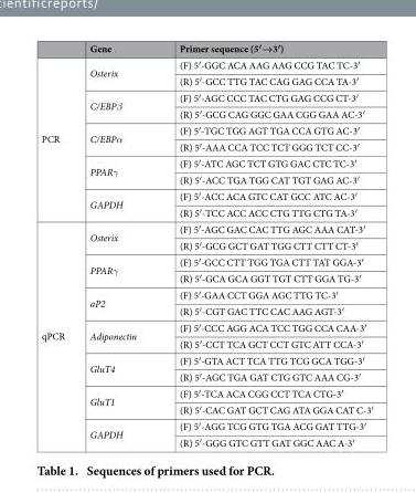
<table><thead><tr><td></td><td>Gene</td><td>Primer sequence (5′→3′)</td></tr></thead><tbody><tr><td rowspan="10">PCR</td><td rowspan="2">Osterix</td><td>(F) 5′ -GGC ACA AAG AAG CCG TAC TC-3′</td></tr><tr><td>(R) 5′ -GCC TTG TAC CAG GAG CCA TA-3′</td></tr><tr><td rowspan="2">C/EBPβ</td><td>(F) 5′ -AGC CCC TAC CTG GAG CCG CT-3′</td></tr><tr><td>(R) 5′ -GCG CAG GGC GAA CGG GAA AC-3′</td></tr><tr><td rowspan="2">C/EBPα</td><td>(F) 5′ -TGC TGG AGT TGA CCA GTG AC-3′</td></tr><tr><td>(R) 5′ -AAA CCA TCC TCT GGG TCT CC-3′</td></tr><tr><td rowspan="2">PPARγ</td><td>(F) 5′ -ATC AGC TCT GTG GAC CTC TC-3′</td></tr><tr><td>(R) 5′ -ACC TGA TGG CAT TGT GAG AC-3′</td></tr><tr><td rowspan="2">GAPDH</td><td>(F) 5′ -ACC ACA GTC CAT GCC ATC AC-3′</td></tr><tr><td>(R) 5′ -TCC ACC ACC CTG TTG CTG TA-3′</td></tr><tr><td rowspan="14">qPCR</td><td rowspan="2">Osterix</td><td>(F) 5′ -AGC GAC CAC TTG AGC AAA CAT-3′</td></tr><tr><td>(R) 5′ -GCG GCT GAT TGG CTT CTT CT-3′</td></tr><tr><td rowspan="2">PPARγ</td><td>(F) 5′ -GCC CTT TGG TGA CTT TAT GGA-3′</td></tr><tr><td>(R) 5′ -GCA GCA GGT TGT CTT GGA TG-3′</td></tr><tr><td rowspan="2">aP2</td><td>(F) 5′ -GAA CCT GGA AGC TTG TC-3′</td></tr><tr><td>(R) 5′ -CGT GAC TTC CAC AAG AGT-3′</td></tr><tr><td rowspan="2">Adiponectin</td><td>(F) 5′ -CCC AGG ACA TCC TGG CCA CAA-3′</td></tr><tr><td>(R) 5′ -CCT TCA GCT CCT GTC ATT CCA-3′</td></tr><tr><td rowspan="2">GluT4</td><td>(F) 5′ -GTA ACT TCA TTG TCG GCA TGG-3′</td></tr><tr><td>(R) 5′ -AGC TGA GAT CTG GTC AAA CG-3′</td></tr><tr><td rowspan="2">GluT1</td><td>(F) 5′ -TCA ACA CGG CCT TCA CTG-3′</td></tr><tr><td>(R) 5′ -CAC GAT GCT CAG ATA GGA CAT C-3′</td></tr><tr><td rowspan="2">GAPDH</td><td>(F) 5′ -AGG TCG GTG TGA ACG GAT TTG-3′</td></tr><tr><td>(R) 5′ -GGG GTC GTT GAT GGC AAC A-3′</td></tr></tbody></table>